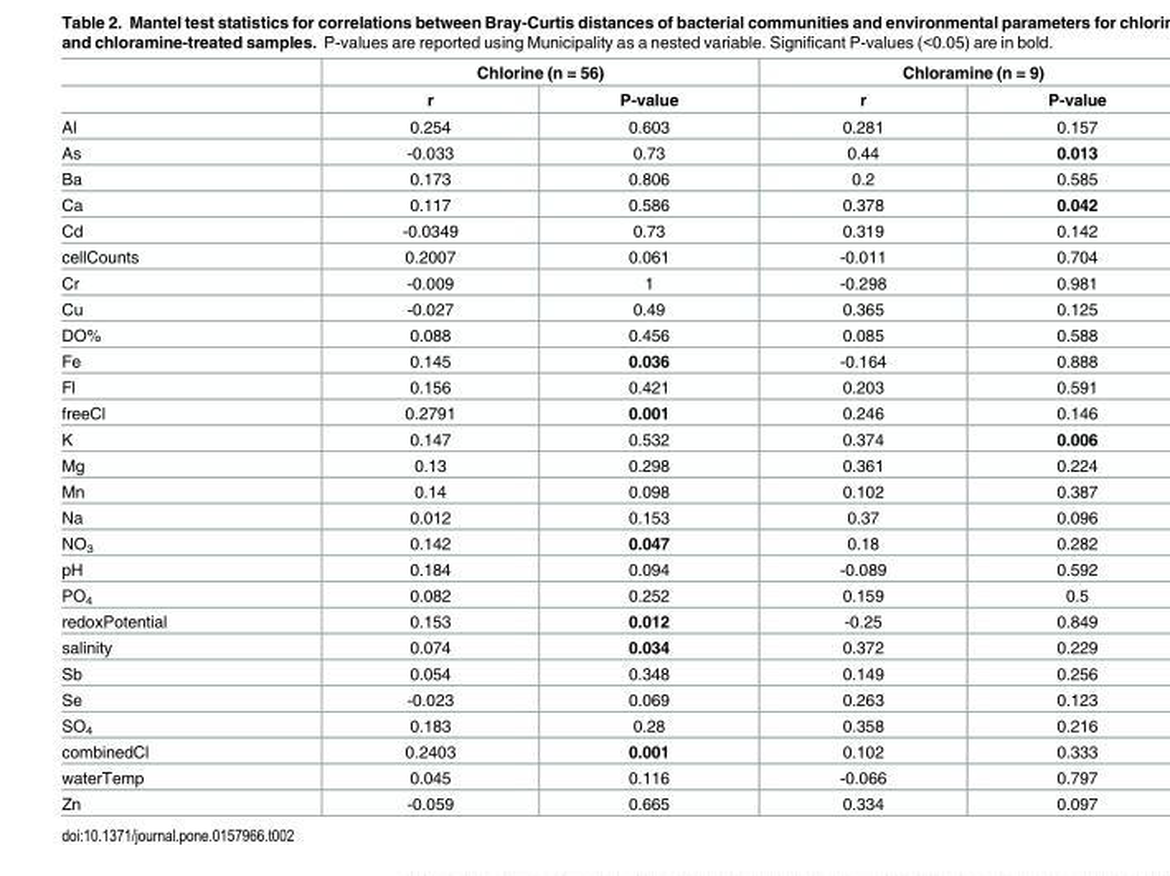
<table><thead><tr><td rowspan="2"></td><td colspan="2">Chlorine (n = 56)</td><td colspan="2">Chloramine (n = 9)</td></tr><tr><td>r</td><td>P-value</td><td>r</td><td>P-value</td></tr></thead><tbody><tr><td>Al</td><td>0.254</td><td>0.603</td><td>0.281</td><td>0.157</td></tr><tr><td>As</td><td>-0.033</td><td>0.73</td><td>0.44</td><td>0.013</td></tr><tr><td>Ba</td><td>0.173</td><td>0.806</td><td>0.2</td><td>0.585</td></tr><tr><td>Ca</td><td>0.117</td><td>0.586</td><td>0.378</td><td>0.042</td></tr><tr><td>Cd</td><td>-0.0349</td><td>0.73</td><td>0.319</td><td>0.142</td></tr><tr><td>cellCounts</td><td>0.2007</td><td>0.061</td><td>-0.011</td><td>0.704</td></tr><tr><td>Cr</td><td>-0.009</td><td>1</td><td>-0.298</td><td>0.981</td></tr><tr><td>Cu</td><td>-0.027</td><td>0.49</td><td>0.365</td><td>0.125</td></tr><tr><td>DO%</td><td>0.088</td><td>0.456</td><td>0.085</td><td>0.588</td></tr><tr><td>Fe</td><td>0.145</td><td>0.036</td><td>-0.164</td><td>0.888</td></tr><tr><td>Fl</td><td>0.156</td><td>0.421</td><td>0.203</td><td>0.591</td></tr><tr><td>freeCl</td><td>0.2791</td><td>0.001</td><td>0.246</td><td>0.146</td></tr><tr><td>K</td><td>0.147</td><td>0.532</td><td>0.374</td><td>0.006</td></tr><tr><td>Mg</td><td>0.13</td><td>0.298</td><td>0.361</td><td>0.224</td></tr><tr><td>Mn</td><td>0.14</td><td>0.098</td><td>0.102</td><td>0.387</td></tr><tr><td>Na</td><td>0.012</td><td>0.153</td><td>0.37</td><td>0.096</td></tr><tr><td>NO<sub>3</sub></td><td>0.142</td><td>0.047</td><td>0.18</td><td>0.282</td></tr><tr><td>pH</td><td>0.184</td><td>0.094</td><td>-0.089</td><td>0.592</td></tr><tr><td>PO<sub>4</sub></td><td>0.082</td><td>0.252</td><td>0.159</td><td>0.5</td></tr><tr><td>redoxPotential</td><td>0.153</td><td>0.012</td><td>-0.25</td><td>0.849</td></tr><tr><td>salinity</td><td>0.074</td><td>0.034</td><td>0.372</td><td>0.229</td></tr><tr><td>Sb</td><td>0.054</td><td>0.348</td><td>0.149</td><td>0.256</td></tr><tr><td>Se</td><td>-0.023</td><td>0.069</td><td>0.263</td><td>0.123</td></tr><tr><td>SO<sub>4</sub></td><td>0.183</td><td>0.28</td><td>0.358</td><td>0.216</td></tr><tr><td>combinedCl</td><td>0.2403</td><td>0.001</td><td>0.102</td><td>0.333</td></tr><tr><td>waterTemp</td><td>0.045</td><td>0.116</td><td>-0.066</td><td>0.797</td></tr><tr><td>Zn</td><td>-0.059</td><td>0.665</td><td>0.334</td><td>0.097</td></tr></tbody></table>